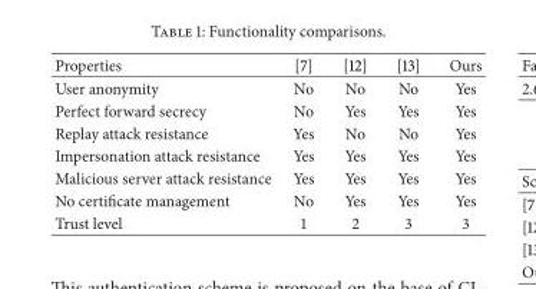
<table><thead><tr><td>Properties</td><td>[7]</td><td>[12]</td><td>[13]</td><td>Ours</td></tr></thead><tbody><tr><td>User anonymity</td><td>No</td><td>No</td><td>No</td><td>Yes</td></tr><tr><td>Perfect forward secrecy</td><td>No</td><td>Yes</td><td>Yes</td><td>Yes</td></tr><tr><td>Replay attack resistance</td><td>Yes</td><td>No</td><td>No</td><td>Yes</td></tr><tr><td>Impersonation attack resistance</td><td>Yes</td><td>Yes</td><td>Yes</td><td>Yes</td></tr><tr><td>Malicious server attack resistance</td><td>Yes</td><td>Yes</td><td>Yes</td><td>Yes</td></tr><tr><td>No certificate management</td><td>No</td><td>Yes</td><td>Yes</td><td>Yes</td></tr><tr><td>Trust level</td><td>1</td><td>2</td><td>3</td><td>3</td></tr></tbody></table>